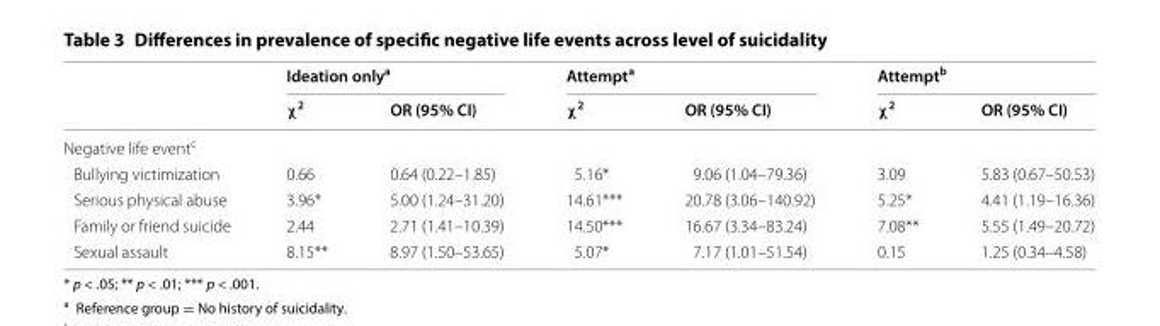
<table><thead><tr><td rowspan="2"></td><td colspan="2">Ideation only<sup>a</sup></td><td colspan="2">Attempt<sup>a</sup></td><td colspan="2">Attempt<sup>b</sup></td></tr><tr><td>χ<sup>2</sup></td><td>OR (95% CI)</td><td>χ<sup>2</sup></td><td>OR (95% CI)</td><td>χ<sup>2</sup></td><td>OR (95% CI)</td></tr></thead><tbody><tr><td colspan="7">Negative life event<sup>c</sup></td></tr><tr><td>Bullying victimization</td><td>0.66</td><td>0.64 (0.22–1.85)</td><td>5.16*</td><td>9.06 (1.04–79.36)</td><td>3.09</td><td>5.83 (0.67–50.53)</td></tr><tr><td>Serious physical abuse</td><td>3.96*</td><td>5.00 (1.24–31.20)</td><td>14.61***</td><td>20.78 (3.06–140.92)</td><td>5.25*</td><td>4.41 (1.19–16.36)</td></tr><tr><td>Family or friend suicide</td><td>2.44</td><td>2.71 (1.41–10.39)</td><td>14.50***</td><td>16.67 (3.34–83.24)</td><td>7.08**</td><td>5.55 (1.49–20.72)</td></tr><tr><td>Sexual assault</td><td>8.15**</td><td>8.97 (1.50–53.65)</td><td>5.07*</td><td>7.17 (1.01–51.54)</td><td>0.15</td><td>1.25 (0.34–4.58)</td></tr></tbody></table>